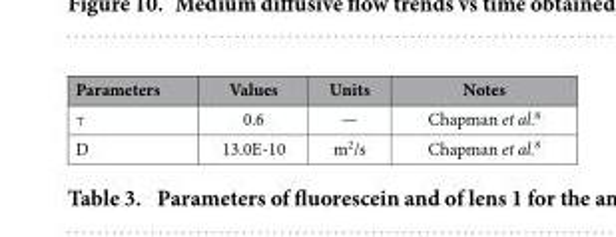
<table><thead><tr><td>Parameters</td><td>Values</td><td>Units</td><td>Notes</td></tr></thead><tbody><tr><td>τ</td><td>0.6</td><td>—</td><td>Chapman et al.<sup>8</sup></td></tr><tr><td>D</td><td>13.0E-10</td><td>m<sup>2</sup>/s</td><td>Chapman et al.<sup>8</sup></td></tr></tbody></table>